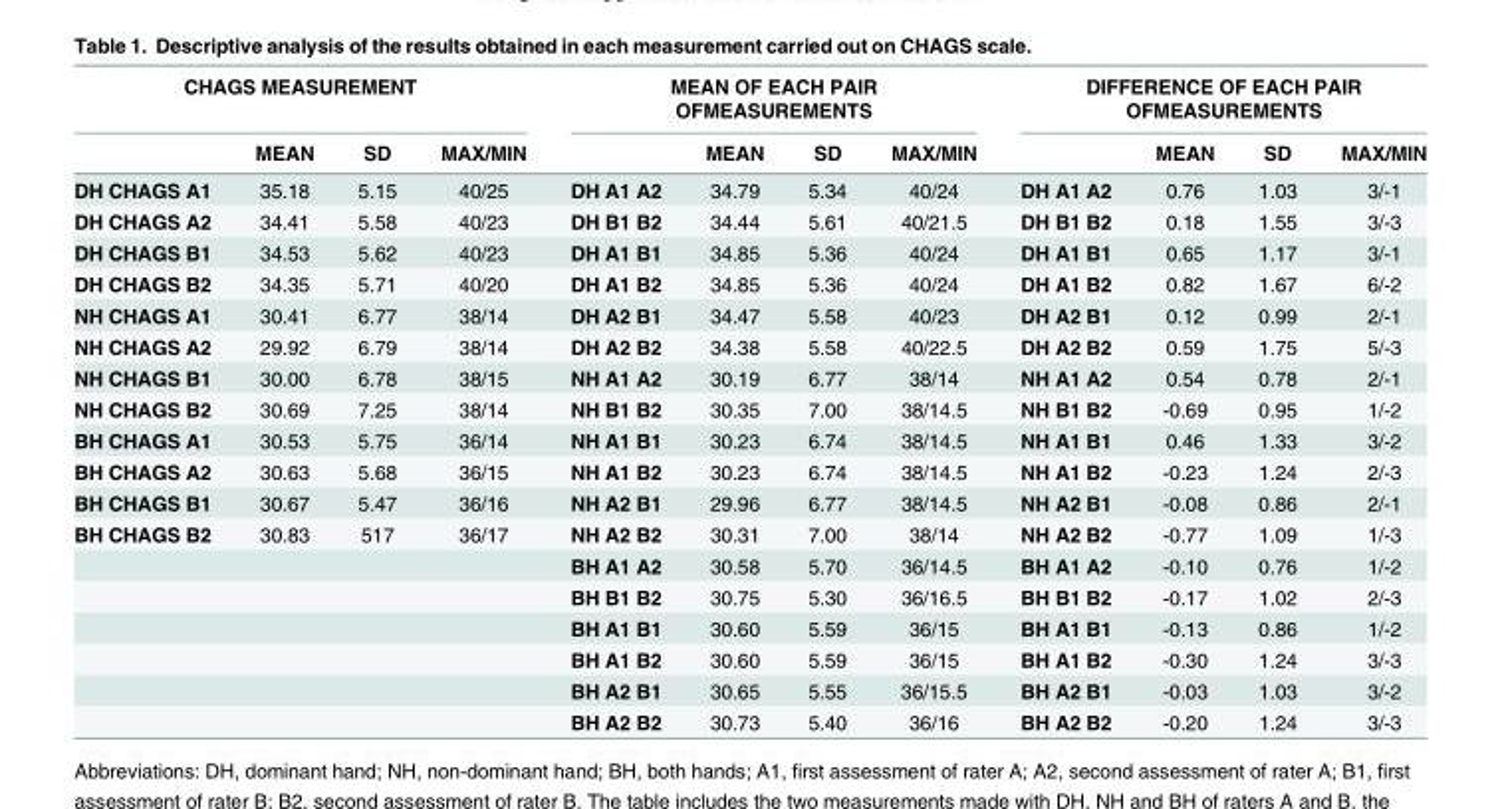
<table><thead><tr><td colspan="4">CHAGS MEASUREMENT</td><td colspan="4">MEAN OF EACH PAIR OFMEASUREMENTS</td><td colspan="4">DIFFERENCE OF EACH PAIR OFMEASUREMENTS</td></tr><tr><td></td><td>MEAN</td><td>SD</td><td>MAX/MIN</td><td></td><td>MEAN</td><td>SD</td><td>MAX/MIN</td><td></td><td>MEAN</td><td>SD</td><td>MAX/MIN</td></tr></thead><tbody><tr><td>DH CHAGS A1</td><td>35.18</td><td>5.15</td><td>40/25</td><td>DH A1 A2</td><td>34.79</td><td>5.34</td><td>40/24</td><td>DH A1 A2</td><td>0.76</td><td>1.03</td><td>3/-1</td></tr><tr><td>DH CHAGS A2</td><td>34.41</td><td>5.58</td><td>40/23</td><td>DH B1 B2</td><td>34.44</td><td>5.61</td><td>40/21.5</td><td>DH B1 B2</td><td>0.18</td><td>1.55</td><td>3/-3</td></tr><tr><td>DH CHAGS B1</td><td>34.53</td><td>5.62</td><td>40/23</td><td>DH A1 B1</td><td>34.85</td><td>5.36</td><td>40/24</td><td>DH A1 B1</td><td>0.65</td><td>1.17</td><td>3/-1</td></tr><tr><td>DH CHAGS B2</td><td>34.35</td><td>5.71</td><td>40/20</td><td>DH A1 B2</td><td>34.85</td><td>5.36</td><td>40/24</td><td>DH A1 B2</td><td>0.82</td><td>1.67</td><td>6/-2</td></tr><tr><td>NH CHAGS A1</td><td>30.41</td><td>6.77</td><td>38/14</td><td>DH A2 B1</td><td>34.47</td><td>5.58</td><td>40/23</td><td>DH A2 B1</td><td>0.12</td><td>0.99</td><td>2/-1</td></tr><tr><td>NH CHAGS A2</td><td>29.92</td><td>6.79</td><td>38/14</td><td>DH A2 B2</td><td>34.38</td><td>5.58</td><td>40/22.5</td><td>DH A2 B2</td><td>0.59</td><td>1.75</td><td>5/-3</td></tr><tr><td>NH CHAGS B1</td><td>30.00</td><td>6.78</td><td>38/15</td><td>NH A1 A2</td><td>30.19</td><td>6.77</td><td>38/14</td><td>NH A1 A2</td><td>0.54</td><td>0.78</td><td>2/-1</td></tr><tr><td>NH CHAGS B2</td><td>30.69</td><td>7.25</td><td>38/14</td><td>NH B1 B2</td><td>30.35</td><td>7.00</td><td>38/14.5</td><td>NH B1 B2</td><td>-0.69</td><td>0.95</td><td>1/-2</td></tr><tr><td>BH CHAGS A1</td><td>30.53</td><td>5.75</td><td>36/14</td><td>NH A1 B1</td><td>30.23</td><td>6.74</td><td>38/14.5</td><td>NH A1 B1</td><td>0.46</td><td>1.33</td><td>3/-2</td></tr><tr><td>BH CHAGS A2</td><td>30.63</td><td>5.68</td><td>36/15</td><td>NH A1 B2</td><td>30.23</td><td>6.74</td><td>38/14.5</td><td>NH A1 B2</td><td>-0.23</td><td>1.24</td><td>2/-3</td></tr><tr><td>BH CHAGS B1</td><td>30.67</td><td>5.47</td><td>36/16</td><td>NH A2 B1</td><td>29.96</td><td>6.77</td><td>38/14.5</td><td>NH A2 B1</td><td>-0.08</td><td>0.86</td><td>2/-1</td></tr><tr><td rowspan="7">BH CHAGS B2</td><td>30.83</td><td>517</td><td>36/17</td><td>NH A2 B2</td><td>30.31</td><td>7.00</td><td>38/14</td><td>NH A2 B2</td><td>-0.77</td><td>1.09</td><td>1/-3</td></tr><tr><td></td><td></td><td></td><td>BH A1 A2</td><td>30.58</td><td>5.70</td><td>36/14.5</td><td>BH A1 A2</td><td>-0.10</td><td>0.76</td><td>1/-2</td></tr><tr><td></td><td></td><td></td><td>BH B1 B2</td><td>30.75</td><td>5.30</td><td>36/16.5</td><td>BH B1 B2</td><td>-0.17</td><td>1.02</td><td>2/-3</td></tr><tr><td></td><td></td><td></td><td>BH A1 B1</td><td>30.60</td><td>5.59</td><td>36/15</td><td>BH A1 B1</td><td>-0.13</td><td>0.86</td><td>1/-2</td></tr><tr><td></td><td></td><td></td><td>BH A1 B2</td><td>30.60</td><td>5.59</td><td>36/15</td><td>BH A1 B2</td><td>-0.30</td><td>1.24</td><td>3/-3</td></tr><tr><td></td><td></td><td></td><td>BH A2 B1</td><td>30.65</td><td>5.55</td><td>36/15.5</td><td>BH A2 B1</td><td>-0.03</td><td>1.03</td><td>3/-2</td></tr><tr><td></td><td></td><td></td><td>BH A2 B2</td><td>30.73</td><td>5.40</td><td>36/16</td><td>BH A2 B2</td><td>-0.20</td><td>1.24</td><td>3/-3</td></tr></tbody></table>